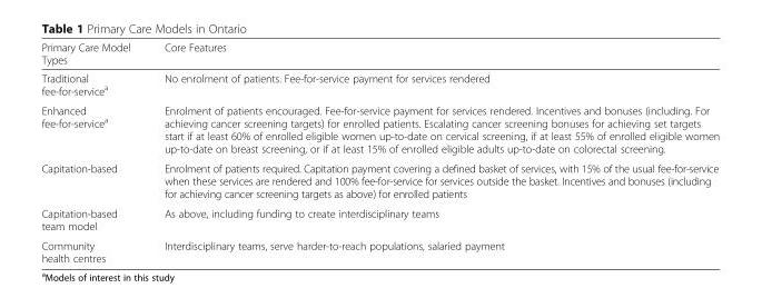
<table><thead><tr><td>Primary Care Model Types</td><td>Core Features</td></tr></thead><tbody><tr><td>Traditional fee-for-service<sup>a</sup></td><td>No enrolment of patients. Fee-for-service payment for services rendered</td></tr><tr><td>Enhanced fee-for-service<sup>a</sup></td><td>Enrolment of patients encouraged. Fee-for-service payment for services rendered. Incentives and bonuses (including. For achieving cancer screening targets) for enrolled patients. Escalating cancer screening bonuses for achieving set targets start if at least 60% of enrolled eligible women up-to-date on cervical screening, if at least 55% of enrolled eligible women up-to-date on breast screening, or if at least 15% of enrolled eligible adults up-to-date on colorectal screening.</td></tr><tr><td>Capitation-based</td><td>Enrolment of patients required. Capitation payment covering a defined basket of services, with 15% of the usual fee-for-service when these services are rendered and 100% fee-for-service for services outside the basket. Incentives and bonuses (including for achieving cancer screening targets as above) for enrolled patients</td></tr><tr><td>Capitation-based team model</td><td>As above, including funding to create interdisciplinary teams</td></tr><tr><td>Community health centres</td><td>Interdisciplinary teams, serve harder-to-reach populations, salaried payment</td></tr></tbody></table>